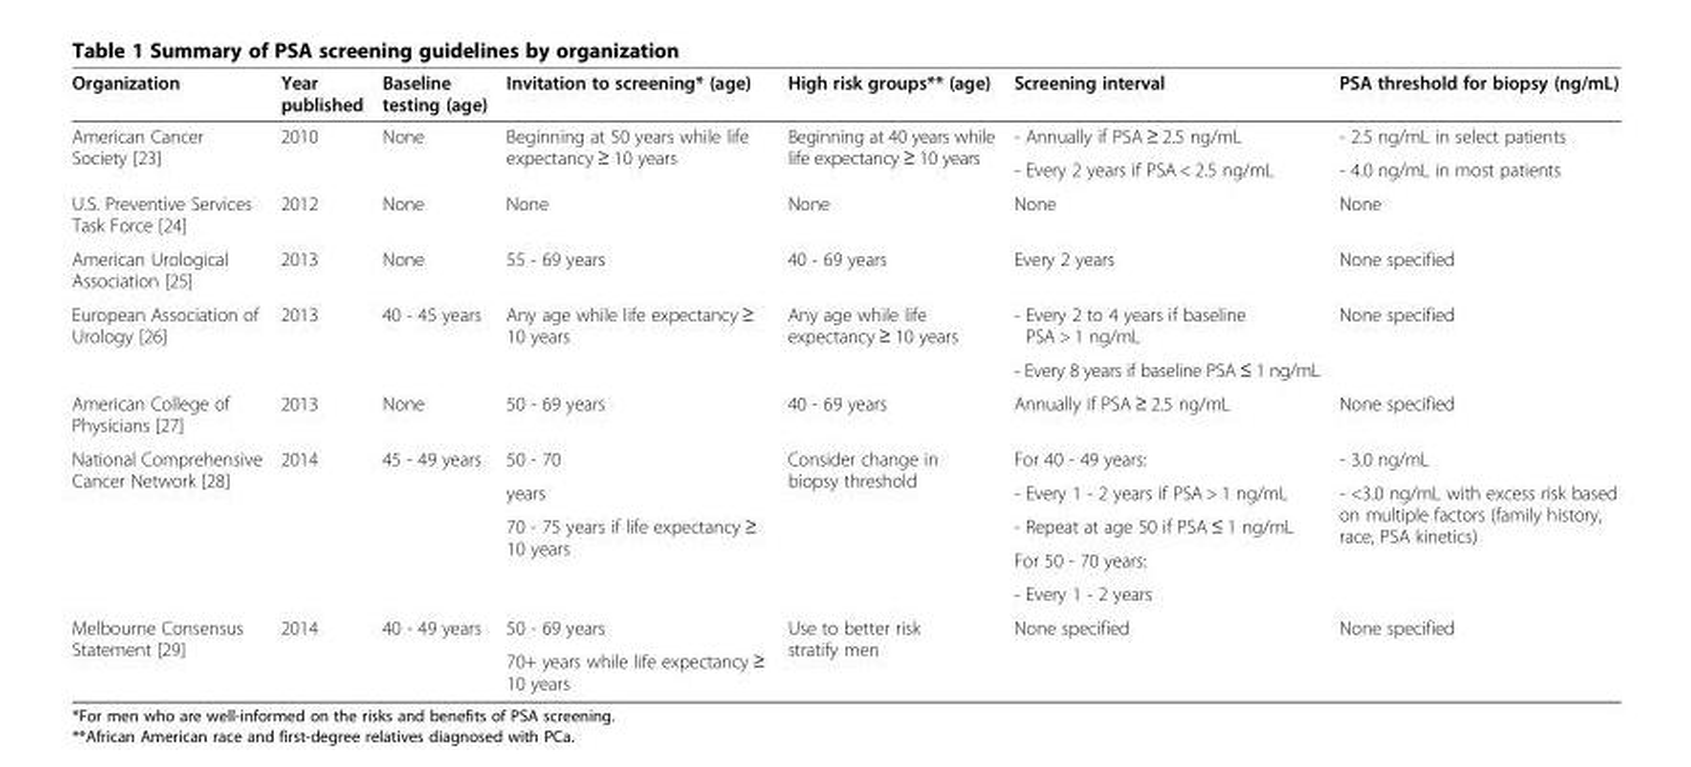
<table><thead><tr><td>Organization</td><td>Year published</td><td>Baseline testing (age)</td><td>Invitation to screening* (age)</td><td>High risk groups** (age)</td><td>Screening interval</td><td>PSA threshold for biopsy (ng/mL)</td></tr></thead><tbody><tr><td rowspan="2">American Cancer Society [23]</td><td rowspan="2">2010</td><td rowspan="2">None</td><td rowspan="2">Beginning at 50 years while life expectancy ≥ 10 years</td><td rowspan="2">Beginning at 40 years while life expectancy ≥ 10 years</td><td>- Annually if PSA ≥ 2.5 ng/mL</td><td>- 2.5 ng/mL in select patients</td></tr><tr><td>- Every 2 years if PSA &lt; 2.5 ng/mL</td><td>- 4.0 ng/mL in most patients</td></tr><tr><td>U.S. Preventive Services Task Force [24]</td><td>2012</td><td>None</td><td>None</td><td>None</td><td>None</td><td>None</td></tr><tr><td>American Urological Association [25]</td><td>2013</td><td>None</td><td>55 - 69 years</td><td>40 - 69 years</td><td>Every 2 years</td><td>None specified</td></tr><tr><td rowspan="2">European Association of Urology [26]</td><td rowspan="2">2013</td><td rowspan="2">40 - 45 years</td><td rowspan="2">Any age while life expectancy ≥ 10 years</td><td rowspan="2">Any age while life expectancy ≥ 10 years</td><td>- Every 2 to 4 years if baseline PSA &gt; 1 ng/mL</td><td rowspan="2">None specified</td></tr><tr><td>- Every 8 years if baseline PSA ≤ 1 ng/mL</td></tr><tr><td>American College of Physicians [27]</td><td>2013</td><td>None</td><td>50 - 69 years</td><td>40 - 69 years</td><td>Annually if PSA ≥ 2.5 ng/mL</td><td>None specified</td></tr><tr><td rowspan="5">National Comprehensive Cancer Network [28]</td><td rowspan="5">2014</td><td rowspan="5">45 - 49 years</td><td>50 - 70</td><td rowspan="5">Consider change in biopsy threshold</td><td>For 40 - 49 years:</td><td>- 3.0 ng/mL</td></tr><tr><td>years</td><td>- Every 1 - 2 years if PSA &gt; 1 ng/mL</td><td rowspan="4">- &lt;3.0 ng/mL with excess risk based on multiple factors (family history, race, PSA kinetics)</td></tr><tr><td rowspan="3">70 - 75 years if life expectancy ≥ 10 years</td><td>- Repeat at age 50 if PSA ≤ 1 ng/mL</td></tr><tr><td>For 50 - 70 years:</td></tr><tr><td>- Every 1 - 2 years</td></tr><tr><td rowspan="2">Melbourne Consensus Statement [29]</td><td rowspan="2">2014</td><td rowspan="2">40 - 49 years</td><td>50 - 69 years</td><td rowspan="2">Use to better risk stratify men</td><td rowspan="2">None specified</td><td rowspan="2">None specified</td></tr><tr><td>70+ years while life expectancy ≥ 10 years</td></tr></tbody></table>